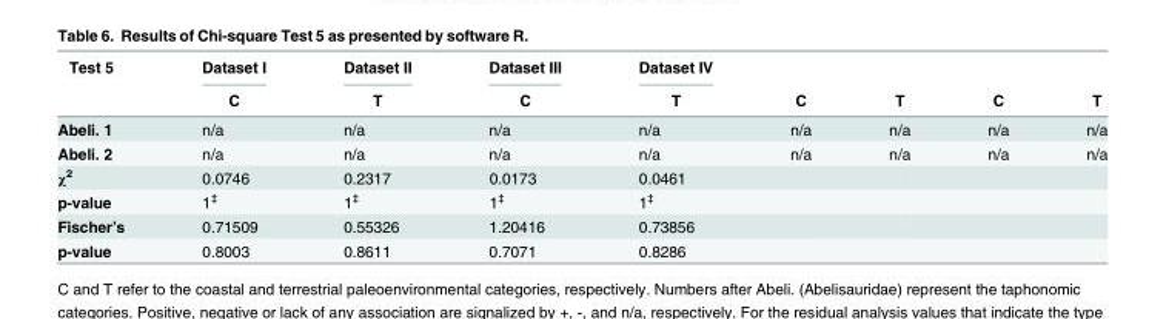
<table><thead><tr><td rowspan="2">Test 5</td><td rowspan="2">Dataset I C</td><td rowspan="2">Dataset II T</td><td rowspan="2">Dataset III C</td><td rowspan="2">Dataset IV T</td><td rowspan="2">C</td><td rowspan="2">T</td><td rowspan="2">C</td><td rowspan="2">T</td></tr><tr></tr></thead><tbody><tr><td>Abeli. 1</td><td>n/a</td><td>n/a</td><td>n/a</td><td>n/a</td><td>n/a</td><td>n/a</td><td>n/a</td><td>n/a</td></tr><tr><td>Abeli. 2</td><td>n/a</td><td>n/a</td><td>n/a</td><td>n/a</td><td>n/a</td><td>n/a</td><td>n/a</td><td>n/a</td></tr><tr><td>χ<sup>2</sup></td><td>0.0746</td><td>0.2317</td><td>0.0173</td><td>0.0461</td><td></td><td></td><td></td><td></td></tr><tr><td>p-value</td><td>1<sup>‡</sup></td><td>1<sup>‡</sup></td><td>1<sup>‡</sup></td><td>1<sup>‡</sup></td><td></td><td></td><td></td><td></td></tr><tr><td>Fischer’s</td><td>0.71509</td><td>0.55326</td><td>1.20416</td><td>0.73856</td><td></td><td></td><td></td><td></td></tr><tr><td>p-value</td><td>0.8003</td><td>0.8611</td><td>0.7071</td><td>0.8286</td><td></td><td></td><td></td><td></td></tr></tbody></table>